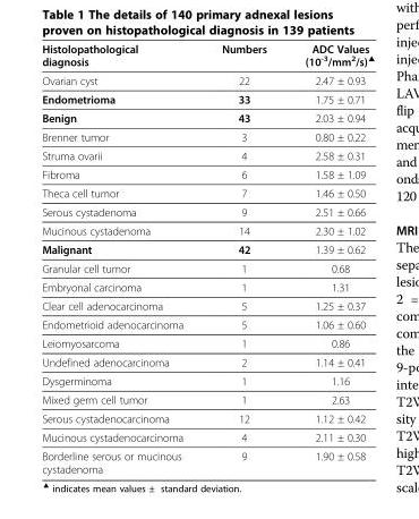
<table><thead><tr><td>Histolopathological diagnosis</td><td>Numbers</td><td>ADC Values (10<sup>-3</sup>/mm<sup>2</sup>/s)<sup>▲</sup></td></tr></thead><tbody><tr><td>Ovarian cyst</td><td>22</td><td>2.47 ± 0.93</td></tr><tr><td>Endometrioma</td><td>33</td><td>1.75 ± 0.71</td></tr><tr><td>Benign</td><td>43</td><td>2.03 ± 0.94</td></tr><tr><td>Brenner tumor</td><td>3</td><td>0.80 ± 0.22</td></tr><tr><td>Struma ovarii</td><td>4</td><td>2.58 ± 0.31</td></tr><tr><td>Fibroma</td><td>6</td><td>1.58 ± 1.09</td></tr><tr><td>Theca cell tumor</td><td>7</td><td>1.46 ± 0.50</td></tr><tr><td>Serous cystadenoma</td><td>9</td><td>2.51 ± 0.66</td></tr><tr><td>Mucinous cystadenoma</td><td>14</td><td>2.30 ± 1.02</td></tr><tr><td>Malignant</td><td>42</td><td>1.39 ± 0.62</td></tr><tr><td>Granular cell tumor</td><td>1</td><td>0.68</td></tr><tr><td>Embryonal carcinoma</td><td>1</td><td>1.31</td></tr><tr><td>Clear cell adenocarcinoma</td><td>5</td><td>1.25 ± 0.37</td></tr><tr><td>Endometrioid adenocarcinoma</td><td>5</td><td>1.06 ± 0.60</td></tr><tr><td>Leiomyosarcoma</td><td>1</td><td>0.86</td></tr><tr><td>Undefined adenocarcinoma</td><td>2</td><td>1.14 ± 0.41</td></tr><tr><td>Dysgerminoma</td><td>1</td><td>1.16</td></tr><tr><td>Mixed germ cell tumor</td><td>1</td><td>2.63</td></tr><tr><td>Serous cystadenocarcinoma</td><td>12</td><td>1.12 ± 0.42</td></tr><tr><td>Mucinous cystadenocarcinoma</td><td>4</td><td>2.11 ± 0.30</td></tr><tr><td>Borderline serous or mucinous cystadenoma</td><td>9</td><td>1.90 ± 0.58</td></tr></tbody></table>